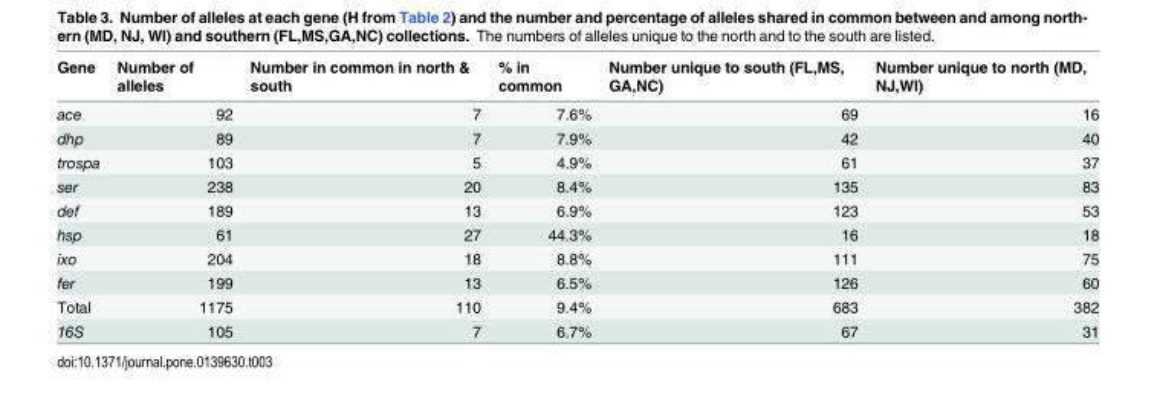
<table><thead><tr><td>Gene</td><td>Number of alleles</td><td>Number in common in north &amp; south</td><td>% in common</td><td>Number unique to south (FL,MS, GA,NC)</td><td>Number unique to north (MD, NJ,WI)</td></tr></thead><tbody><tr><td>ace</td><td>92</td><td>7</td><td>7.6%</td><td>69</td><td>16</td></tr><tr><td>dhp</td><td>89</td><td>7</td><td>7.9%</td><td>42</td><td>40</td></tr><tr><td>trospa</td><td>103</td><td>5</td><td>4.9%</td><td>61</td><td>37</td></tr><tr><td>ser</td><td>238</td><td>20</td><td>8.4%</td><td>135</td><td>83</td></tr><tr><td>def</td><td>189</td><td>13</td><td>6.9%</td><td>123</td><td>53</td></tr><tr><td>hsp</td><td>61</td><td>27</td><td>44.3%</td><td>16</td><td>18</td></tr><tr><td>ixo</td><td>204</td><td>18</td><td>8.8%</td><td>111</td><td>75</td></tr><tr><td>fer</td><td>199</td><td>13</td><td>6.5%</td><td>126</td><td>60</td></tr><tr><td>Total</td><td>1175</td><td>110</td><td>9.4%</td><td>683</td><td>382</td></tr><tr><td>16S</td><td>105</td><td>7</td><td>6.7%</td><td>67</td><td>31</td></tr></tbody></table>